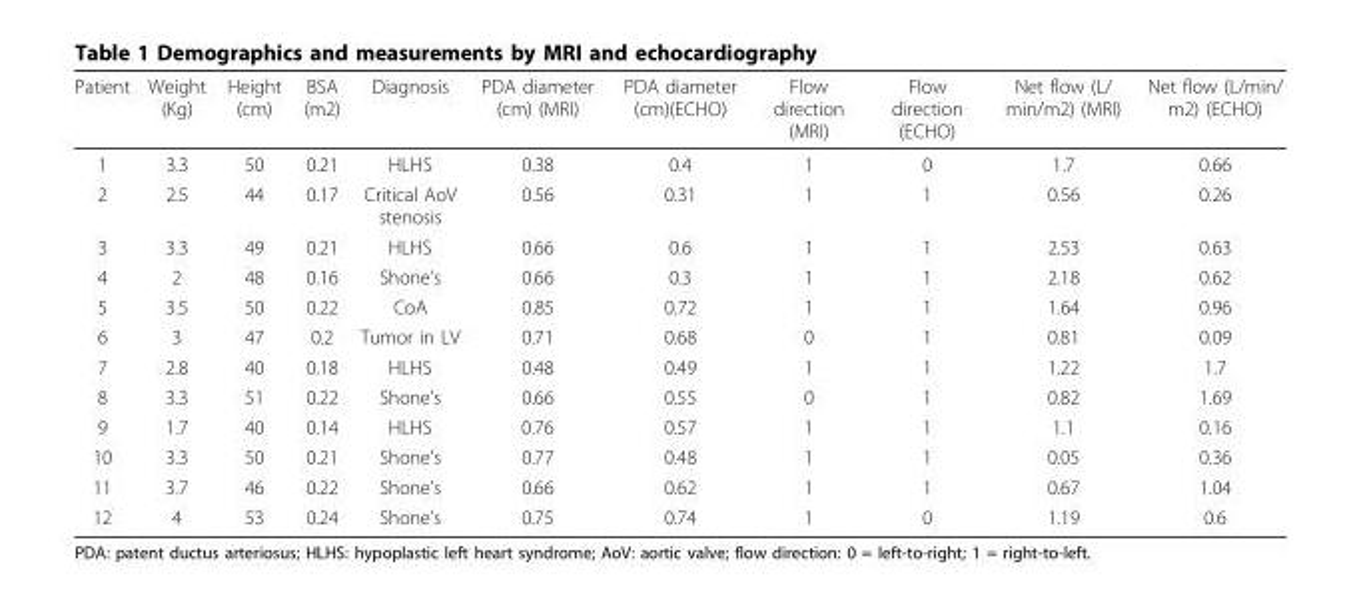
<table><thead><tr><td>Patient</td><td>Weight (Kg)</td><td>Height (cm)</td><td>BSA (m2)</td><td>Diagnosis</td><td>PDA diameter (cm) (MRI)</td><td>PDA diameter (cm)(ECHO)</td><td>Flow direction (MRI)</td><td>Flow direction (ECHO)</td><td>Net flow (L/ min/m2) (MRI)</td><td>Net flow (L/min/ m2) (ECHO)</td></tr></thead><tbody><tr><td>1</td><td>3.3</td><td>50</td><td>0.21</td><td>HLHS</td><td>0.38</td><td>0.4</td><td>1</td><td>0</td><td>1.7</td><td>0.66</td></tr><tr><td>2</td><td>2.5</td><td>44</td><td>0.17</td><td>Critical AoV stenosis</td><td>0.56</td><td>0.31</td><td>1</td><td>1</td><td>0.56</td><td>0.26</td></tr><tr><td>3</td><td>3.3</td><td>49</td><td>0.21</td><td>HLHS</td><td>0.66</td><td>0.6</td><td>1</td><td>1</td><td>2.53</td><td>0.63</td></tr><tr><td>4</td><td>2</td><td>48</td><td>0.16</td><td>Shone’s</td><td>0.66</td><td>0.3</td><td>1</td><td>1</td><td>2.18</td><td>0.62</td></tr><tr><td>5</td><td>3.5</td><td>50</td><td>0.22</td><td>CoA</td><td>0.85</td><td>0.72</td><td>1</td><td>1</td><td>1.64</td><td>0.96</td></tr><tr><td>6</td><td>3</td><td>47</td><td>0.2</td><td>Tumor in LV</td><td>0.71</td><td>0.68</td><td>0</td><td>1</td><td>0.81</td><td>0.09</td></tr><tr><td>7</td><td>2.8</td><td>40</td><td>0.18</td><td>HLHS</td><td>0.48</td><td>0.49</td><td>1</td><td>1</td><td>1.22</td><td>1.7</td></tr><tr><td>8</td><td>3.3</td><td>51</td><td>0.22</td><td>Shone’s</td><td>0.66</td><td>0.55</td><td>0</td><td>1</td><td>0.82</td><td>1.69</td></tr><tr><td>9</td><td>1.7</td><td>40</td><td>0.14</td><td>HLHS</td><td>0.76</td><td>0.57</td><td>1</td><td>1</td><td>1.1</td><td>0.16</td></tr><tr><td>10</td><td>3.3</td><td>50</td><td>0.21</td><td>Shone’s</td><td>0.77</td><td>0.48</td><td>1</td><td>1</td><td>0.05</td><td>0.36</td></tr><tr><td>11</td><td>3.7</td><td>46</td><td>0.22</td><td>Shone’s</td><td>0.66</td><td>0.62</td><td>1</td><td>1</td><td>0.67</td><td>1.04</td></tr><tr><td>12</td><td>4</td><td>53</td><td>0.24</td><td>Shone’s</td><td>0.75</td><td>0.74</td><td>1</td><td>0</td><td>1.19</td><td>0.6</td></tr></tbody></table>